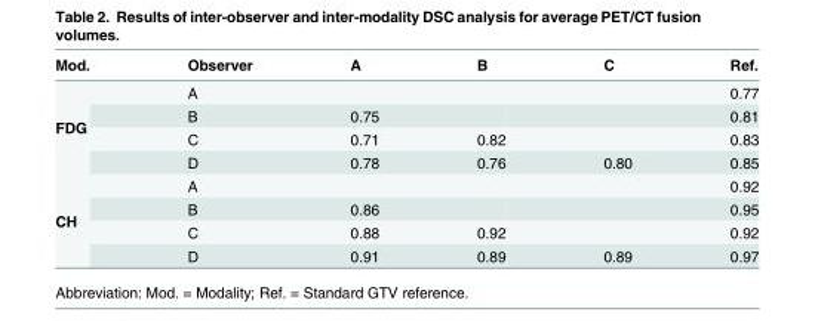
<table><thead><tr><td>Mod.</td><td>Observer</td><td>A</td><td>B</td><td>C</td><td>Ref.</td></tr></thead><tbody><tr><td rowspan="4">FDG</td><td>A</td><td></td><td></td><td></td><td>0.77</td></tr><tr><td>B</td><td>0.75</td><td></td><td></td><td>0.81</td></tr><tr><td>C</td><td>0.71</td><td>0.82</td><td></td><td>0.83</td></tr><tr><td>D</td><td>0.78</td><td>0.76</td><td>0.80</td><td>0.85</td></tr><tr><td rowspan="4">CH</td><td>A</td><td></td><td></td><td></td><td>0.92</td></tr><tr><td>B</td><td>0.86</td><td></td><td></td><td>0.95</td></tr><tr><td>C</td><td>0.88</td><td>0.92</td><td></td><td>0.92</td></tr><tr><td>D</td><td>0.91</td><td>0.89</td><td>0.89</td><td>0.97</td></tr></tbody></table>